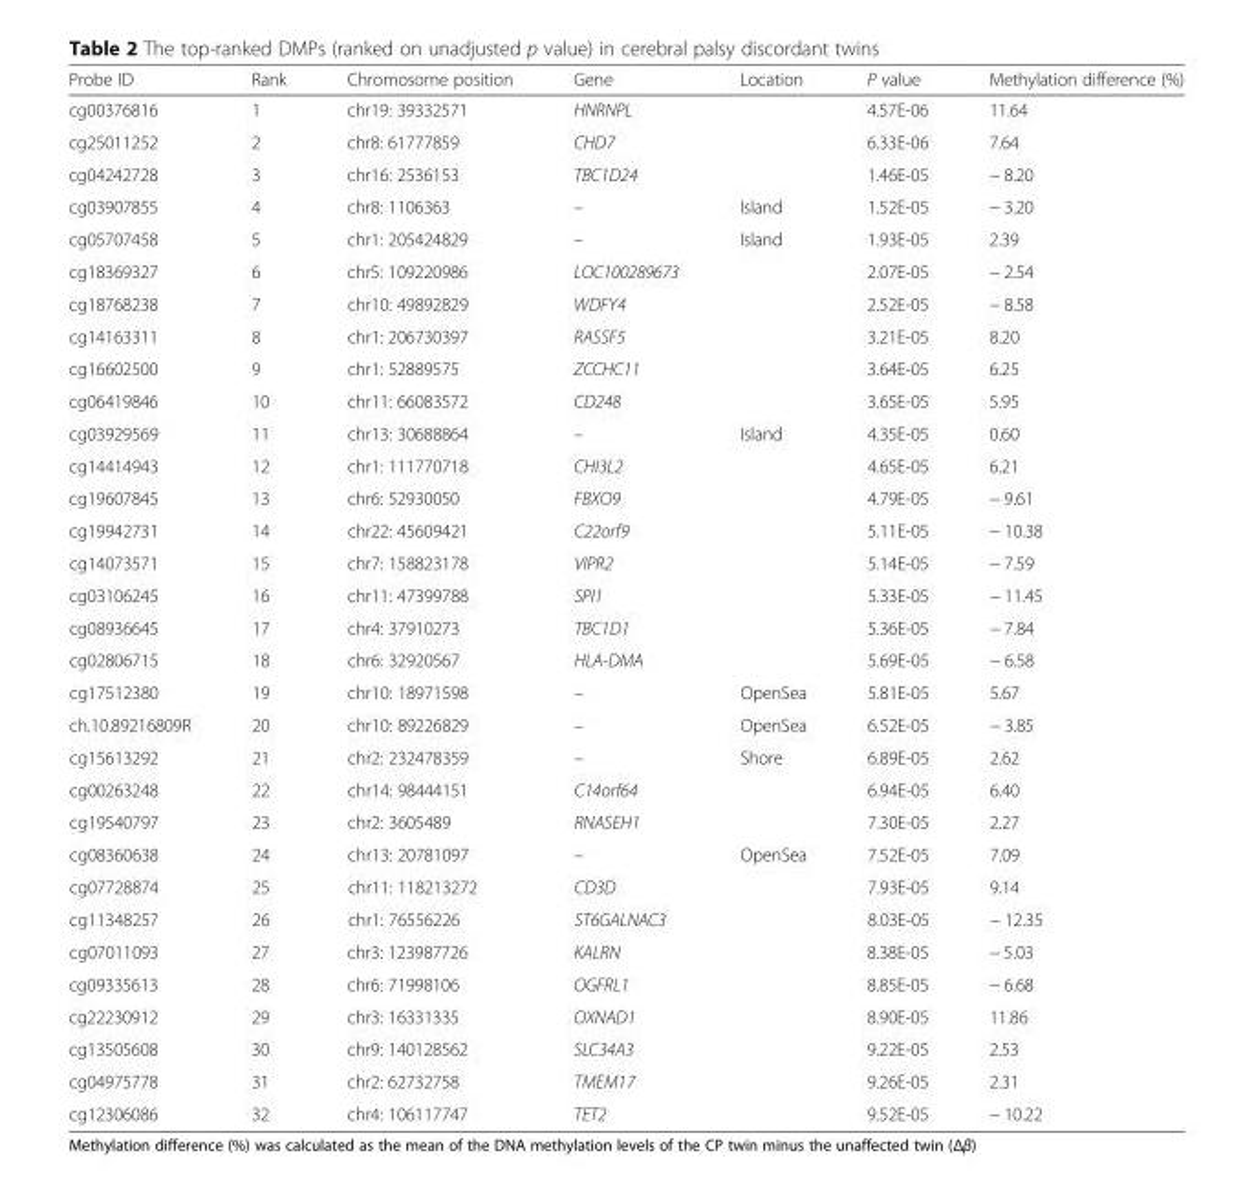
<table><thead><tr><td>Probe ID</td><td>Rank</td><td>Chromosome position</td><td>Gene</td><td>Location</td><td>P value</td><td>Methylation difference (%)</td></tr></thead><tbody><tr><td>cg00376816</td><td>1</td><td>chr19: 39332571</td><td>HNRNPL</td><td></td><td>4.57E-06</td><td>11.64</td></tr><tr><td>cg25011252</td><td>2</td><td>chr8: 61777859</td><td>CHD7</td><td></td><td>6.33E-06</td><td>7.64</td></tr><tr><td>cg04242728</td><td>3</td><td>chr16: 2536153</td><td>TBC1D24</td><td></td><td>1.46E-05</td><td>− 8.20</td></tr><tr><td>cg03907855</td><td>4</td><td>chr8: 1106363</td><td>–</td><td>Island</td><td>1.52E-05</td><td>− 3.20</td></tr><tr><td>cg05707458</td><td>5</td><td>chr1: 205424829</td><td>–</td><td>Island</td><td>1.93E-05</td><td>2.39</td></tr><tr><td>cg18369327</td><td>6</td><td>chr5: 109220986</td><td>LOC100289673</td><td></td><td>2.07E-05</td><td>− 2.54</td></tr><tr><td>cg18768238</td><td>7</td><td>chr10: 49892829</td><td>WDFY4</td><td></td><td>2.52E-05</td><td>− 8.58</td></tr><tr><td>cg14163311</td><td>8</td><td>chr1: 206730397</td><td>RASSF5</td><td></td><td>3.21E-05</td><td>8.20</td></tr><tr><td>cg16602500</td><td>9</td><td>chr1: 52889575</td><td>ZCCHC11</td><td></td><td>3.64E-05</td><td>6.25</td></tr><tr><td>cg06419846</td><td>10</td><td>chr11: 66083572</td><td>CD248</td><td></td><td>3.65E-05</td><td>5.95</td></tr><tr><td>cg03929569</td><td>11</td><td>chr13: 30688864</td><td>–</td><td>Island</td><td>4.35E-05</td><td>0.60</td></tr><tr><td>cg14414943</td><td>12</td><td>chr1: 111770718</td><td>CHI3L2</td><td></td><td>4.65E-05</td><td>6.21</td></tr><tr><td>cg19607845</td><td>13</td><td>chr6: 52930050</td><td>FBXO9</td><td></td><td>4.79E-05</td><td>− 9.61</td></tr><tr><td>cg19942731</td><td>14</td><td>chr22: 45609421</td><td>C22orf9</td><td></td><td>5.11E-05</td><td>− 10.38</td></tr><tr><td>cg14073571</td><td>15</td><td>chr7: 158823178</td><td>VIPR2</td><td></td><td>5.14E-05</td><td>− 7.59</td></tr><tr><td>cg03106245</td><td>16</td><td>chr11: 47399788</td><td>SPI1</td><td></td><td>5.33E-05</td><td>− 11.45</td></tr><tr><td>cg08936645</td><td>17</td><td>chr4: 37910273</td><td>TBC1D1</td><td></td><td>5.36E-05</td><td>− 7.84</td></tr><tr><td>cg02806715</td><td>18</td><td>chr6: 32920567</td><td>HLA-DMA</td><td></td><td>5.69E-05</td><td>− 6.58</td></tr><tr><td>cg17512380</td><td>19</td><td>chr10: 18971598</td><td>–</td><td>OpenSea</td><td>5.81E-05</td><td>5.67</td></tr><tr><td>ch.10.89216809R</td><td>20</td><td>chr10: 89226829</td><td>–</td><td>OpenSea</td><td>6.52E-05</td><td>− 3.85</td></tr><tr><td>cg15613292</td><td>21</td><td>chr2: 232478359</td><td>–</td><td>Shore</td><td>6.89E-05</td><td>2.62</td></tr><tr><td>cg00263248</td><td>22</td><td>chr14: 98444151</td><td>C14orf64</td><td></td><td>6.94E-05</td><td>6.40</td></tr><tr><td>cg19540797</td><td>23</td><td>chr2: 3605489</td><td>RNASEH1</td><td></td><td>7.30E-05</td><td>2.27</td></tr><tr><td>cg08360638</td><td>24</td><td>chr13: 20781097</td><td>–</td><td>OpenSea</td><td>7.52E-05</td><td>7.09</td></tr><tr><td>cg07728874</td><td>25</td><td>chr11: 118213272</td><td>CD3D</td><td></td><td>7.93E-05</td><td>9.14</td></tr><tr><td>cg11348257</td><td>26</td><td>chr1: 76556226</td><td>ST6GALNAC3</td><td></td><td>8.03E-05</td><td>− 12.35</td></tr><tr><td>cg07011093</td><td>27</td><td>chr3: 123987726</td><td>KALRN</td><td></td><td>8.38E-05</td><td>− 5.03</td></tr><tr><td>cg09335613</td><td>28</td><td>chr6: 71998106</td><td>OGFRL1</td><td></td><td>8.85E-05</td><td>− 6.68</td></tr><tr><td>cg22230912</td><td>29</td><td>chr3: 16331335</td><td>OXNAD1</td><td></td><td>8.90E-05</td><td>11.86</td></tr><tr><td>cg13505608</td><td>30</td><td>chr9: 140128562</td><td>SLC34A3</td><td></td><td>9.22E-05</td><td>2.53</td></tr><tr><td>cg04975778</td><td>31</td><td>chr2: 62732758</td><td>TMEM17</td><td></td><td>9.26E-05</td><td>2.31</td></tr><tr><td>cg12306086</td><td>32</td><td>chr4: 106117747</td><td>TET2</td><td></td><td>9.52E-05</td><td>− 10.22</td></tr></tbody></table>